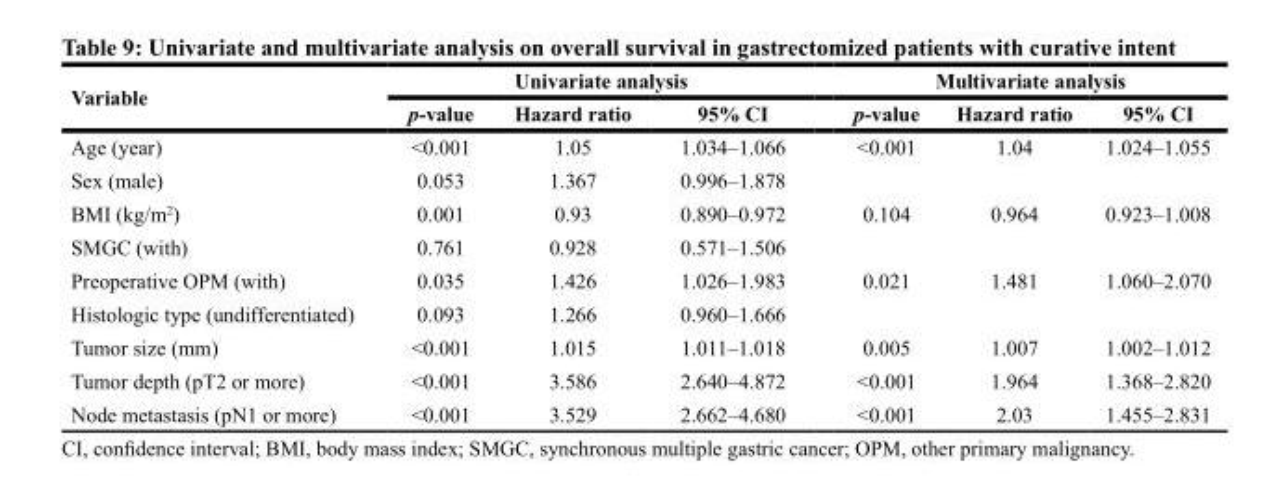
<table><thead><tr><td rowspan="2">Variable</td><td colspan="3">Univariate analysis</td><td colspan="3">Multivariate analysis</td></tr><tr><td>p-value</td><td>Hazard ratio</td><td>95% CI</td><td>p-value</td><td>Hazard ratio</td><td>95% CI</td></tr></thead><tbody><tr><td>Age (year)</td><td>&lt;0.001</td><td>1.05</td><td>1.034–1.066</td><td>&lt;0.001</td><td>1.04</td><td>1.024–1.055</td></tr><tr><td>Sex (male)</td><td>0.053</td><td>1.367</td><td>0.996–1.878</td><td></td><td></td><td></td></tr><tr><td>BMI (kg/m<sup>2</sup>)</td><td>0.001</td><td>0.93</td><td>0.890–0.972</td><td>0.104</td><td>0.964</td><td>0.923–1.008</td></tr><tr><td>SMGC (with)</td><td>0.761</td><td>0.928</td><td>0.571–1.506</td><td></td><td></td><td></td></tr><tr><td>Preoperative OPM (with)</td><td>0.035</td><td>1.426</td><td>1.026–1.983</td><td>0.021</td><td>1.481</td><td>1.060–2.070</td></tr><tr><td>Histologic type (undifferentiated)</td><td>0.093</td><td>1.266</td><td>0.960–1.666</td><td></td><td></td><td></td></tr><tr><td>Tumor size (mm)</td><td>&lt;0.001</td><td>1.015</td><td>1.011–1.018</td><td>0.005</td><td>1.007</td><td>1.002–1.012</td></tr><tr><td>Tumor depth (pT2 or more)</td><td>&lt;0.001</td><td>3.586</td><td>2.640–4.872</td><td>&lt;0.001</td><td>1.964</td><td>1.368–2.820</td></tr><tr><td>Node metastasis (pN1 or more)</td><td>&lt;0.001</td><td>3.529</td><td>2.662–4.680</td><td>&lt;0.001</td><td>2.03</td><td>1.455–2.831</td></tr></tbody></table>